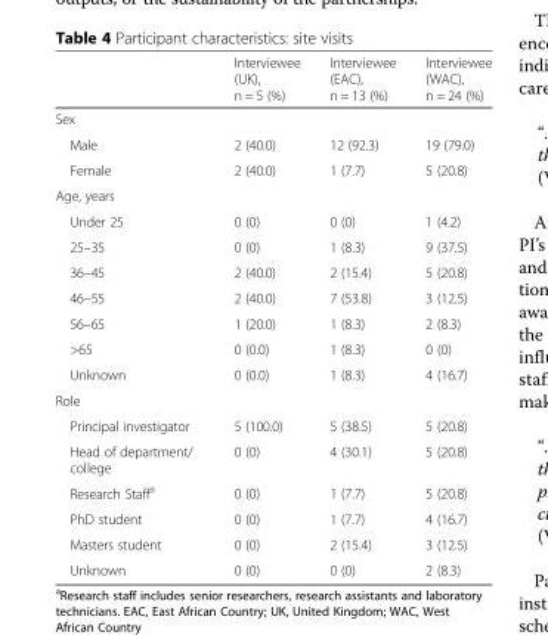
<table><thead><tr><td></td><td>Interviewee (UK), n = 5 (%)</td><td>Interviewee (EAC), n = 13 (%)</td><td>Interviewee (WAC), n = 24 (%)</td></tr></thead><tbody><tr><td colspan="4">Sex</td></tr><tr><td>Male</td><td>2 (40.0)</td><td>12 (92.3)</td><td>19 (79.0)</td></tr><tr><td>Female</td><td>2 (40.0)</td><td>1 (7.7)</td><td>5 (20.8)</td></tr><tr><td colspan="4">Age, years</td></tr><tr><td>Under 25</td><td>0 (0)</td><td>0 (0)</td><td>1 (4.2)</td></tr><tr><td>25–35</td><td>0 (0)</td><td>1 (8.3)</td><td>9 (37.5)</td></tr><tr><td>36–45</td><td>2 (40.0)</td><td>2 (15.4)</td><td>5 (20.8)</td></tr><tr><td>46–55</td><td>2 (40.0)</td><td>7 (53.8)</td><td>3 (12.5)</td></tr><tr><td>56–65</td><td>1 (20.0)</td><td>1 (8.3)</td><td>2 (8.3)</td></tr><tr><td>&gt;65</td><td>0 (0.0)</td><td>1 (8.3)</td><td>0 (0)</td></tr><tr><td>Unknown</td><td>0 (0.0)</td><td>1 (8.3)</td><td>4 (16.7)</td></tr><tr><td colspan="4">Role</td></tr><tr><td>Principal investigator</td><td>5 (100.0)</td><td>5 (38.5)</td><td>5 (20.8)</td></tr><tr><td>Head of department/ college</td><td>0 (0)</td><td>4 (30.1)</td><td>5 (20.8)</td></tr><tr><td>Research Staff<sup>a</sup></td><td>0 (0)</td><td>1 (7.7)</td><td>5 (20.8)</td></tr><tr><td>PhD student</td><td>0 (0)</td><td>1 (7.7)</td><td>4 (16.7)</td></tr><tr><td>Masters student</td><td>0 (0)</td><td>2 (15.4)</td><td>3 (12.5)</td></tr><tr><td>Unknown</td><td>0 (0)</td><td>0 (0)</td><td>2 (8.3)</td></tr></tbody></table>